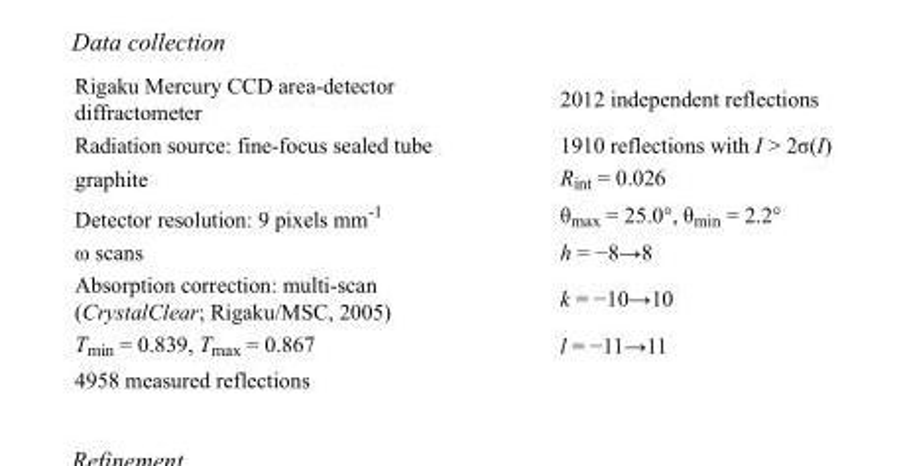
<table><tbody><tr><td>Rigaku Mercury CCD area-detector diffractometer</td><td>2012 independent reflections</td></tr><tr><td>Radiation source: fine-focus sealed tube</td><td>1910 reflections with I &gt; 2σ(I)</td></tr><tr><td>graphite</td><td>R<sub>int</sub> = 0.026</td></tr><tr><td>Detector resolution: 9 pixels mm<sup>-1</sup></td><td>θ<sub>max</sub> = 25.0°, θ<sub>min</sub> = 2.2°</td></tr><tr><td>ω scans</td><td>h = −8→8</td></tr><tr><td>Absorption correction: multi-scan (CrystalClear; Rigaku/MSC, 2005)</td><td>k = −10→10</td></tr><tr><td>T<sub>min</sub> = 0.839, T<sub>max</sub> = 0.867</td><td>l = −11→11</td></tr><tr><td>4958 measured reflections</td><td></td></tr></tbody></table>